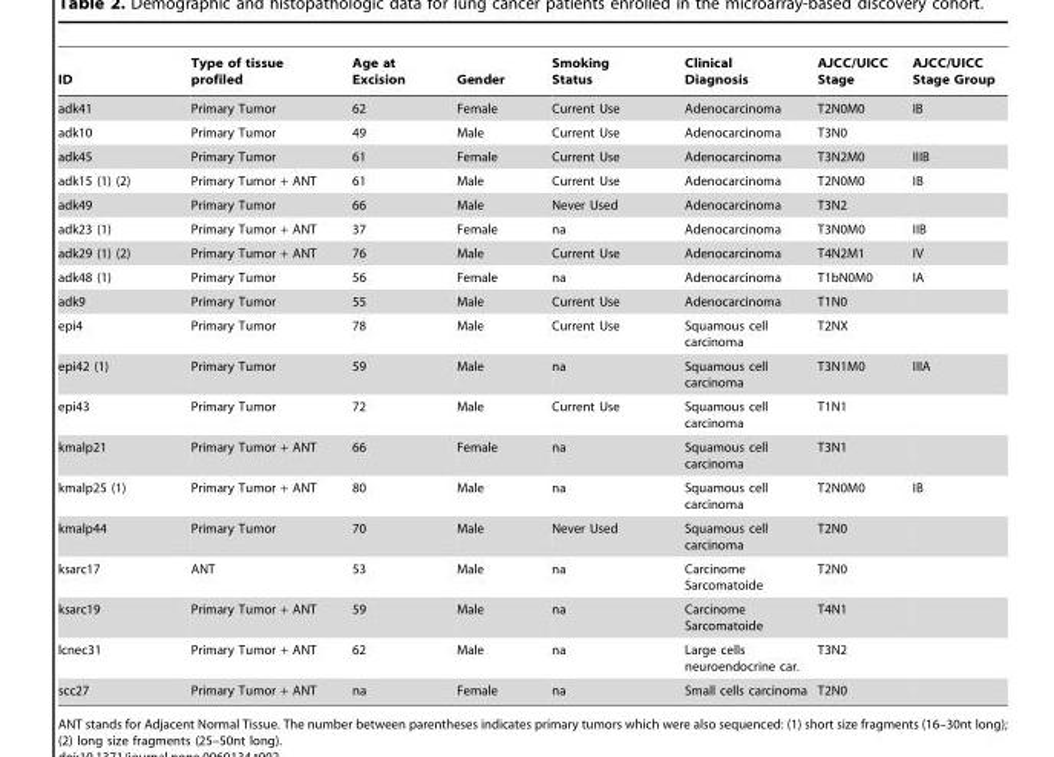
<table><thead><tr><td>ID</td><td>Type of tissue profiled</td><td>Age at Excision</td><td>Gender</td><td>Smoking Status</td><td>Clinical Diagnosis</td><td>AJCC/UICC Stage</td><td>AJCC/UICC Stage Group</td></tr></thead><tbody><tr><td>adk41</td><td>Primary Tumor</td><td>62</td><td>Female</td><td>Current Use</td><td>Adenocarcinoma</td><td>T2N0M0</td><td>IB</td></tr><tr><td>adk10</td><td>Primary Tumor</td><td>49</td><td>Male</td><td>Current Use</td><td>Adenocarcinoma</td><td>T3N0</td><td></td></tr><tr><td>adk45</td><td>Primary Tumor</td><td>61</td><td>Female</td><td>Current Use</td><td>Adenocarcinoma</td><td>T3N2M0</td><td>IIIB</td></tr><tr><td>adk15 (1) (2)</td><td>Primary Tumor + ANT</td><td>61</td><td>Male</td><td>Current Use</td><td>Adenocarcinoma</td><td>T2N0M0</td><td>IB</td></tr><tr><td>adk49</td><td>Primary Tumor</td><td>66</td><td>Male</td><td>Never Used</td><td>Adenocarcinoma</td><td>T3N2</td><td></td></tr><tr><td>adk23 (1)</td><td>Primary Tumor + ANT</td><td>37</td><td>Female</td><td>na</td><td>Adenocarcinoma</td><td>T3N0M0</td><td>IIB</td></tr><tr><td>adk29 (1) (2)</td><td>Primary Tumor + ANT</td><td>76</td><td>Male</td><td>Current Use</td><td>Adenocarcinoma</td><td>T4N2M1</td><td>IV</td></tr><tr><td>adk48 (1)</td><td>Primary Tumor</td><td>56</td><td>Female</td><td>na</td><td>Adenocarcinoma</td><td>T1bN0M0</td><td>IA</td></tr><tr><td>adk9</td><td>Primary Tumor</td><td>55</td><td>Male</td><td>Current Use</td><td>Adenocarcinoma</td><td>T1N0</td><td></td></tr><tr><td>epi4</td><td>Primary Tumor</td><td>78</td><td>Male</td><td>Current Use</td><td>Squamous cell carcinoma</td><td>T2NX</td><td></td></tr><tr><td>epi42 (1)</td><td>Primary Tumor</td><td>59</td><td>Male</td><td>na</td><td>Squamous cell carcinoma</td><td>T3N1M0</td><td>IIIA</td></tr><tr><td>epi43</td><td>Primary Tumor</td><td>72</td><td>Male</td><td>Current Use</td><td>Squamous cell carcinoma</td><td>T1N1</td><td></td></tr><tr><td>kmalp21</td><td>Primary Tumor + ANT</td><td>66</td><td>Female</td><td>na</td><td>Squamous cell carcinoma</td><td>T3N1</td><td></td></tr><tr><td>kmalp25 (1)</td><td>Primary Tumor + ANT</td><td>80</td><td>Male</td><td>na</td><td>Squamous cell carcinoma</td><td>T2N0M0</td><td>IB</td></tr><tr><td>kmalp44</td><td>Primary Tumor</td><td>70</td><td>Male</td><td>Never Used</td><td>Squamous cell carcinoma</td><td>T2N0</td><td></td></tr><tr><td>ksarc17</td><td>ANT</td><td>53</td><td>Male</td><td>na</td><td>Carcinome Sarcomatoide</td><td>T2N0</td><td></td></tr><tr><td>ksarc19</td><td>Primary Tumor + ANT</td><td>59</td><td>Male</td><td>na</td><td>Carcinome Sarcomatoide</td><td>T4N1</td><td></td></tr><tr><td>lcnec31</td><td>Primary Tumor + ANT</td><td>62</td><td>Male</td><td>na</td><td>Large cells neuroendocrine car.</td><td>T3N2</td><td></td></tr><tr><td>scc27</td><td>Primary Tumor + ANT</td><td>na</td><td>Female</td><td>na</td><td>Small cells carcinoma</td><td>T2N0</td><td></td></tr></tbody></table>